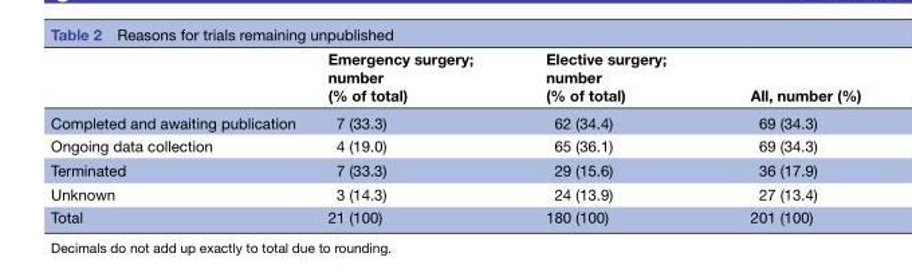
<table><thead><tr><td></td><td>Emergency surgery; number (% of total)</td><td>Elective surgery; number (% of total)</td><td>All, number (%)</td></tr></thead><tbody><tr><td>Completed and awaiting publication</td><td>7 (33.3)</td><td>62 (34.4)</td><td>69 (34.3)</td></tr><tr><td>Ongoing data collection</td><td>4 (19.0)</td><td>65 (36.1)</td><td>69 (34.3)</td></tr><tr><td>Terminated</td><td>7 (33.3)</td><td>29 (15.6)</td><td>36 (17.9)</td></tr><tr><td>Unknown</td><td>3 (14.3)</td><td>24 (13.9)</td><td>27 (13.4)</td></tr><tr><td>Total</td><td>21 (100)</td><td>180 (100)</td><td>201 (100)</td></tr></tbody></table>